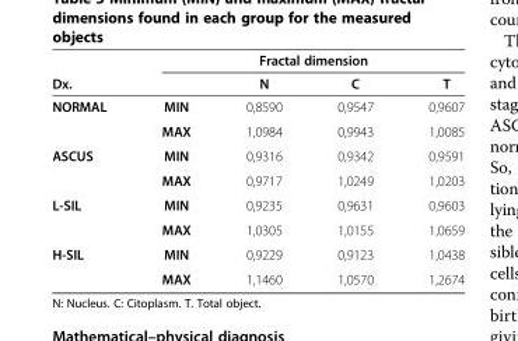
<table><thead><tr><td rowspan="2">Dx.</td><td colspan="4">Fractal dimension</td></tr><tr><td></td><td>N</td><td>C</td><td>T</td></tr></thead><tbody><tr><td rowspan="2">NORMAL</td><td>MIN</td><td>0,8590</td><td>0,9547</td><td>0,9607</td></tr><tr><td>MAX</td><td>1,0984</td><td>0,9943</td><td>1,0085</td></tr><tr><td rowspan="2">ASCUS</td><td>MIN</td><td>0,9316</td><td>0,9342</td><td>0,9591</td></tr><tr><td>MAX</td><td>0,9717</td><td>1,0249</td><td>1,0203</td></tr><tr><td rowspan="2">L-SIL</td><td>MIN</td><td>0,9235</td><td>0,9631</td><td>0,9603</td></tr><tr><td>MAX</td><td>1,0305</td><td>1,0155</td><td>1,0659</td></tr><tr><td rowspan="2">H-SIL</td><td>MIN</td><td>0,9229</td><td>0,9123</td><td>1,0438</td></tr><tr><td>MAX</td><td>1,1460</td><td>1,0570</td><td>1,2674</td></tr></tbody></table>